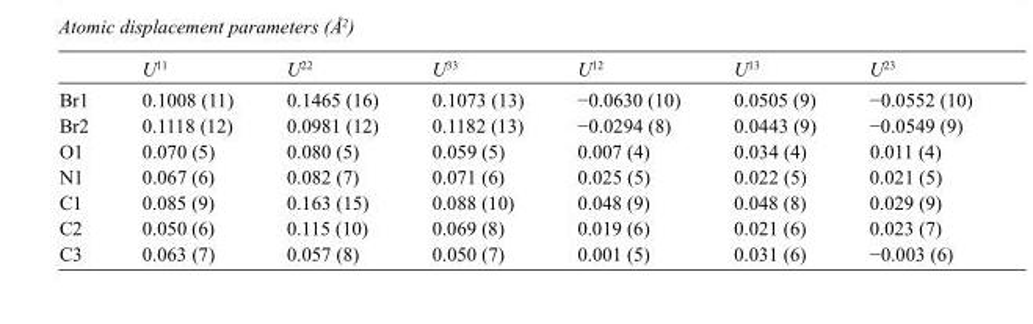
<table><thead><tr><td></td><td>U<sup>11</sup></td><td>U<sup>22</sup></td><td>U<sup>33</sup></td><td>U<sup>12</sup></td><td>U<sup>13</sup></td><td>U<sup>23</sup></td></tr></thead><tbody><tr><td>Br1</td><td>0.1008 (11)</td><td>0.1465 (16)</td><td>0.1073 (13)</td><td>−0.0630 (10)</td><td>0.0505 (9)</td><td>−0.0552 (10)</td></tr><tr><td>Br2</td><td>0.1118 (12)</td><td>0.0981 (12)</td><td>0.1182 (13)</td><td>−0.0294 (8)</td><td>0.0443 (9)</td><td>−0.0549 (9)</td></tr><tr><td>O1</td><td>0.070 (5)</td><td>0.080 (5)</td><td>0.059 (5)</td><td>0.007 (4)</td><td>0.034 (4)</td><td>0.011 (4)</td></tr><tr><td>N1</td><td>0.067 (6)</td><td>0.082 (7)</td><td>0.071 (6)</td><td>0.025 (5)</td><td>0.022 (5)</td><td>0.021 (5)</td></tr><tr><td>C1</td><td>0.085 (9)</td><td>0.163 (15)</td><td>0.088 (10)</td><td>0.048 (9)</td><td>0.048 (8)</td><td>0.029 (9)</td></tr><tr><td>C2</td><td>0.050 (6)</td><td>0.115 (10)</td><td>0.069 (8)</td><td>0.019 (6)</td><td>0.021 (6)</td><td>0.023 (7)</td></tr><tr><td>C3</td><td>0.063 (7)</td><td>0.057 (8)</td><td>0.050 (7)</td><td>0.001 (5)</td><td>0.031 (6)</td><td>−0.003 (6)</td></tr></tbody></table>